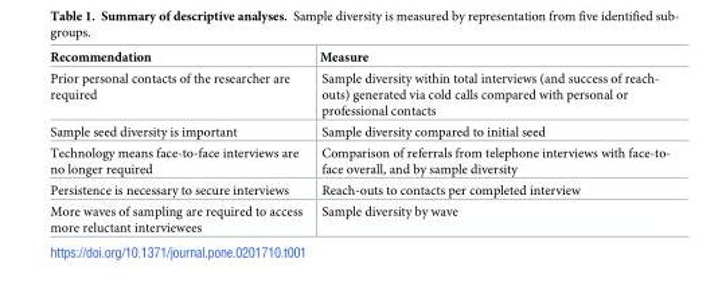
<table><thead><tr><td>Recommendation</td><td>Measure</td></tr></thead><tbody><tr><td>Prior personal contacts of the researcher are required</td><td>Sample diversity within total interviews (and success of reach- outs) generated via cold calls compared with personal or professional contacts</td></tr><tr><td>Sample seed diversity is important</td><td>Sample diversity compared to initial seed</td></tr><tr><td>Technology means face-to-face interviews are no longer required</td><td>Comparison of referrals from telephone interviews with face-to- face overall, and by sample diversity</td></tr><tr><td>Persistence is necessary to secure interviews</td><td>Reach-outs to contacts per completed interview</td></tr><tr><td>More waves of sampling are required to access more reluctant interviewees</td><td>Sample diversity by wave</td></tr></tbody></table>